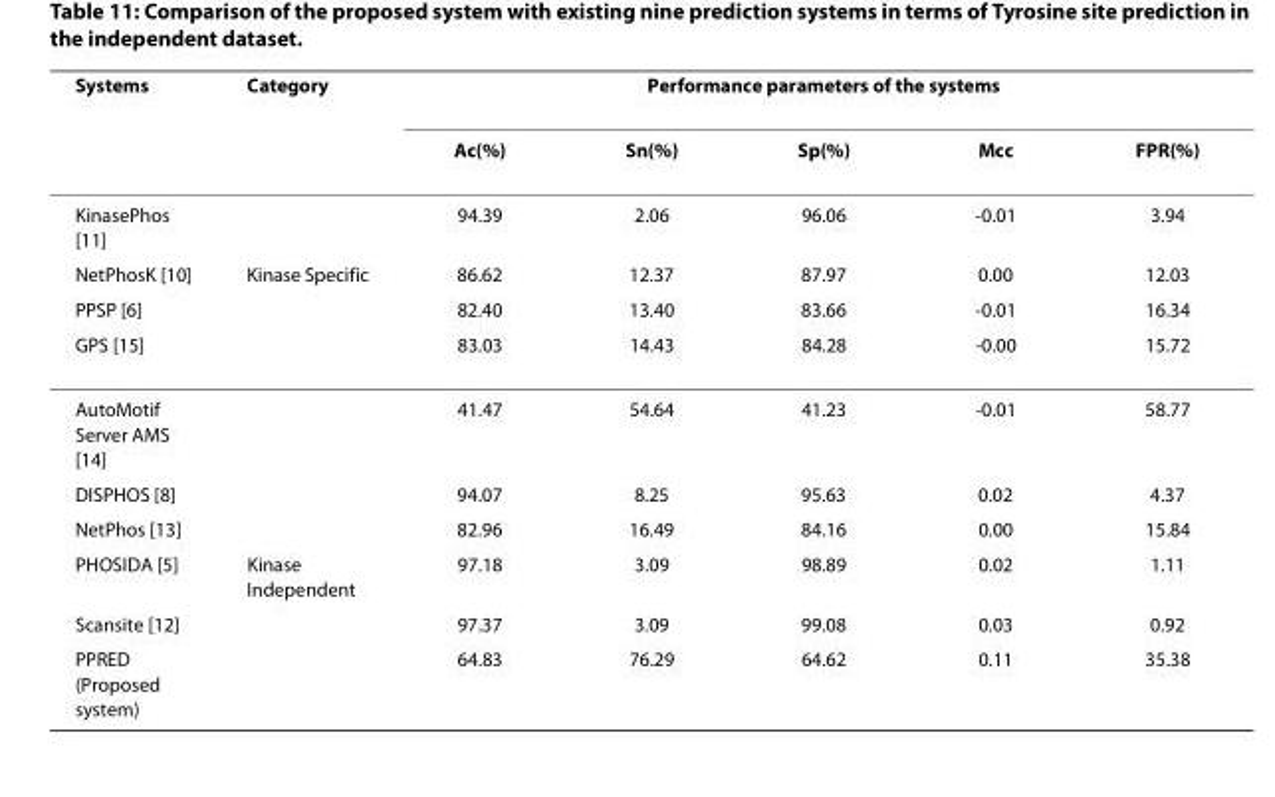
<table><thead><tr><td rowspan="2">Systems</td><td rowspan="2">Category</td><td colspan="5">Performance parameters of the systems</td></tr><tr><td>Ac(%)</td><td>Sn(%)</td><td>Sp(%)</td><td>Mcc</td><td>FPR(%)</td></tr></thead><tbody><tr><td>KinasePhos [11]</td><td></td><td>94.39</td><td>2.06</td><td>96.06</td><td>-0.01</td><td>3.94</td></tr><tr><td>NetPhosK [10]</td><td>Kinase Specific</td><td>86.62</td><td>12.37</td><td>87.97</td><td>0.00</td><td>12.03</td></tr><tr><td>PPSP [6]</td><td></td><td>82.40</td><td>13.40</td><td>83.66</td><td>-0.01</td><td>16.34</td></tr><tr><td>GPS [15]</td><td></td><td>83.03</td><td>14.43</td><td>84.28</td><td>-0.00</td><td>15.72</td></tr><tr><td>AutoMotif Server AMS [14]</td><td></td><td>41.47</td><td>54.64</td><td>41.23</td><td>-0.01</td><td>58.77</td></tr><tr><td>DISPHOS [8]</td><td></td><td>94.07</td><td>8.25</td><td>95.63</td><td>0.02</td><td>4.37</td></tr><tr><td>NetPhos [13]</td><td></td><td>82.96</td><td>16.49</td><td>84.16</td><td>0.00</td><td>15.84</td></tr><tr><td>PHOSIDA [5]</td><td>Kinase Independent</td><td>97.18</td><td>3.09</td><td>98.89</td><td>0.02</td><td>1.11</td></tr><tr><td>Scansite [12]</td><td></td><td>97.37</td><td>3.09</td><td>99.08</td><td>0.03</td><td>0.92</td></tr><tr><td>PPRED (Proposed system)</td><td></td><td>64.83</td><td>76.29</td><td>64.62</td><td>0.11</td><td>35.38</td></tr></tbody></table>